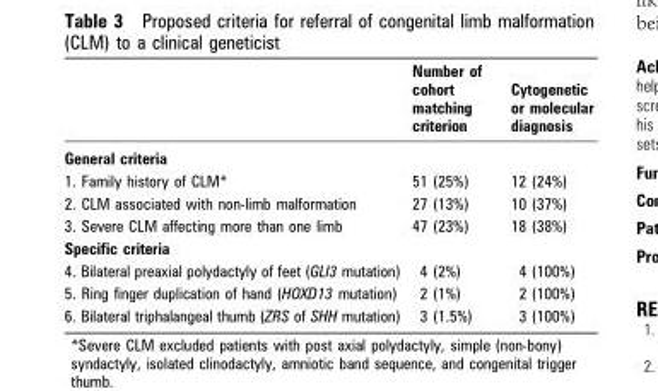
<table><thead><tr><td></td><td>Number of cohort matching criterion</td><td>Cytogenetic or molecular diagnosis</td></tr></thead><tbody><tr><td colspan="3">General criteria</td></tr><tr><td>1. Family history of CLM*</td><td>51 (25%)</td><td>12 (24%)</td></tr><tr><td>2. CLM associated with non-limb malformation</td><td>27 (13%)</td><td>10 (37%)</td></tr><tr><td>3. Severe CLM affecting more than one limb</td><td>47 (23%)</td><td>18 (38%)</td></tr><tr><td colspan="3">Specific criteria</td></tr><tr><td>4. Bilateral preaxial polydactyly of feet (GLI3 mutation)</td><td>4 (2%)</td><td>4 (100%)</td></tr><tr><td>5. Ring finger duplication of hand (HOXD13 mutation)</td><td>2 (1%)</td><td>2 (100%)</td></tr><tr><td>6. Bilateral triphalangeal thumb (ZRS of SHH mutation)</td><td>3 (1.5%)</td><td>3 (100%)</td></tr></tbody></table>